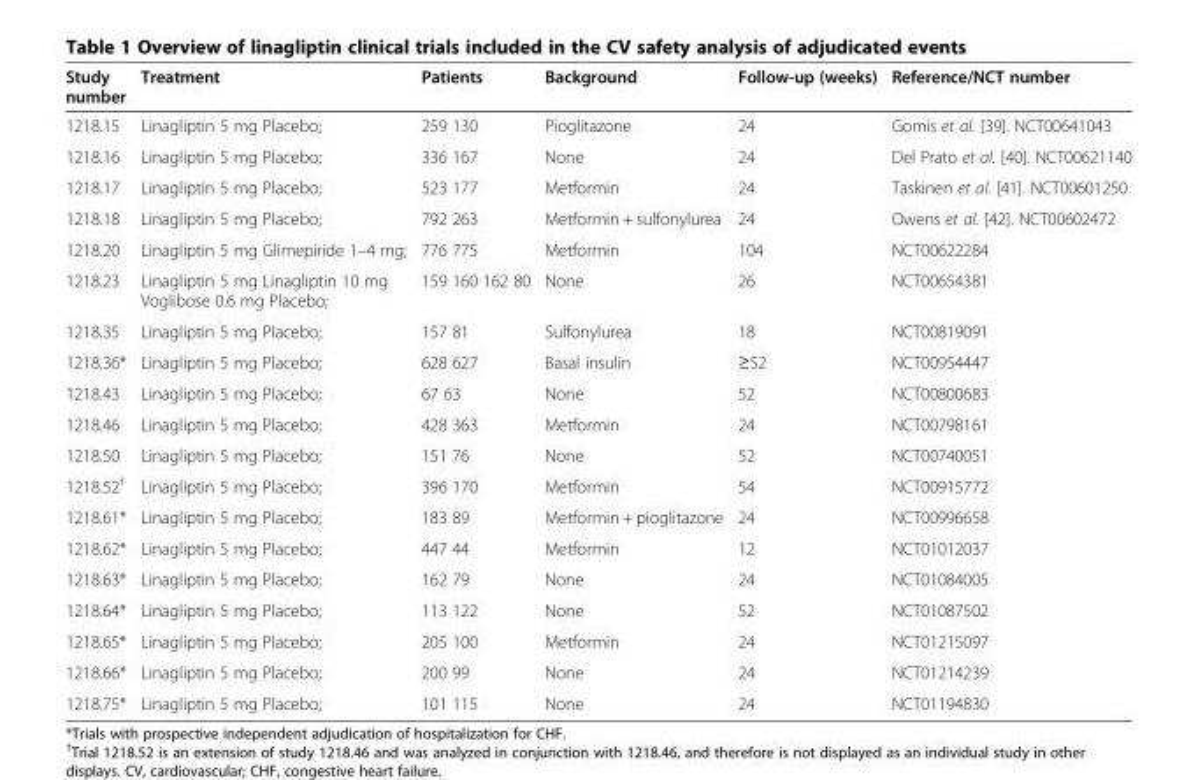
<table><thead><tr><td>Study number</td><td>Treatment</td><td>Patients</td><td>Background</td><td>Follow-up (weeks)</td><td>Reference/NCT number</td></tr></thead><tbody><tr><td>1218.15</td><td>Linagliptin 5 mg Placebo;</td><td>259 130</td><td>Pioglitazone</td><td>24</td><td>Gomis et al. [39]. NCT00641043</td></tr><tr><td>1218.16</td><td>Linagliptin 5 mg Placebo;</td><td>336 167</td><td>None</td><td>24</td><td>Del Prato et al. [40]. NCT00621140</td></tr><tr><td>1218.17</td><td>Linagliptin 5 mg Placebo;</td><td>523 177</td><td>Metformin</td><td>24</td><td>Taskinen et al. [41]. NCT00601250</td></tr><tr><td>1218.18</td><td>Linagliptin 5 mg Placebo;</td><td>792 263</td><td>Metformin + sulfonylurea</td><td>24</td><td>Owens et al. [42]. NCT00602472</td></tr><tr><td>1218.20</td><td>Linagliptin 5 mg Glimepiride 1–4 mg;</td><td>776 775</td><td>Metformin</td><td>104</td><td>NCT00622284</td></tr><tr><td>1218.23</td><td>Linagliptin 5 mg Linagliptin 10 mg Voglibose 0.6 mg Placebo;</td><td>159 160 162 80</td><td>None</td><td>26</td><td>NCT00654381</td></tr><tr><td>1218.35</td><td>Linagliptin 5 mg Placebo;</td><td>157 81</td><td>Sulfonylurea</td><td>18</td><td>NCT00819091</td></tr><tr><td>1218.36*</td><td>Linagliptin 5 mg Placebo;</td><td>628 627</td><td>Basal insulin</td><td>≥52</td><td>NCT00954447</td></tr><tr><td>1218.43</td><td>Linagliptin 5 mg Placebo;</td><td>67 63</td><td>None</td><td>52</td><td>NCT00800683</td></tr><tr><td>1218.46</td><td>Linagliptin 5 mg Placebo;</td><td>428 363</td><td>Metformin</td><td>24</td><td>NCT00798161</td></tr><tr><td>1218.50</td><td>Linagliptin 5 mg Placebo;</td><td>151 76</td><td>None</td><td>52</td><td>NCT00740051</td></tr><tr><td>1218.52<sup>†</sup></td><td>Linagliptin 5 mg Placebo;</td><td>396 170</td><td>Metformin</td><td>54</td><td>NCT00915772</td></tr><tr><td>1218.61*</td><td>Linagliptin 5 mg Placebo;</td><td>183 89</td><td>Metformin + pioglitazone</td><td>24</td><td>NCT00996658</td></tr><tr><td>1218.62*</td><td>Linagliptin 5 mg Placebo;</td><td>447 44</td><td>Metformin</td><td>12</td><td>NCT01012037</td></tr><tr><td>1218.63*</td><td>Linagliptin 5 mg Placebo;</td><td>162 79</td><td>None</td><td>24</td><td>NCT01084005</td></tr><tr><td>1218.64*</td><td>Linagliptin 5 mg Placebo;</td><td>113 122</td><td>None</td><td>52</td><td>NCT01087502</td></tr><tr><td>1218.65*</td><td>Linagliptin 5 mg Placebo;</td><td>205 100</td><td>Metformin</td><td>24</td><td>NCT01215097</td></tr><tr><td>1218.66*</td><td>Linagliptin 5 mg Placebo;</td><td>200 99</td><td>None</td><td>24</td><td>NCT01214239</td></tr><tr><td>1218.75*</td><td>Linagliptin 5 mg Placebo;</td><td>101 115</td><td>None</td><td>24</td><td>NCT01194830</td></tr></tbody></table>